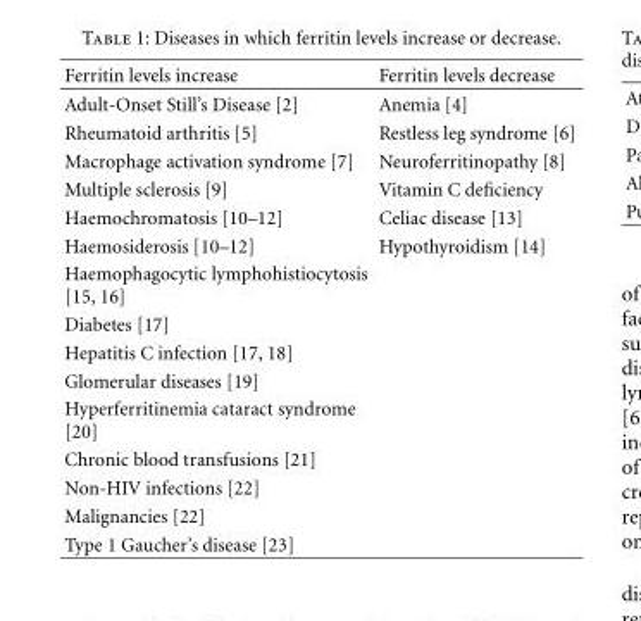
<table><thead><tr><td>Ferritin levels increase</td><td>Ferritin levels decrease</td></tr></thead><tbody><tr><td>Adult-Onset Still’s Disease [2]</td><td>Anemia [4]</td></tr><tr><td>Rheumatoid arthritis [5]</td><td>Restless leg syndrome [6]</td></tr><tr><td>Macrophage activation syndrome [7]</td><td>Neuroferritinopathy [8]</td></tr><tr><td>Multiple sclerosis [9]</td><td>Vitamin C deficiency</td></tr><tr><td>Haemochromatosis [10–12]</td><td>Celiac disease [13]</td></tr><tr><td>Haemosiderosis [10–12]</td><td>Hypothyroidism [14]</td></tr><tr><td colspan="2">Haemophagocytic lymphohistiocytosis [15, 16]</td></tr><tr><td colspan="2">Diabetes [17]</td></tr><tr><td colspan="2">Hepatitis C infection [17, 18]</td></tr><tr><td colspan="2">Glomerular diseases [19]</td></tr><tr><td colspan="2">Hyperferritinemia cataract syndrome [20]</td></tr><tr><td colspan="2">Chronic blood transfusions [21]</td></tr><tr><td colspan="2">Non-HIV infections [22]</td></tr><tr><td colspan="2">Malignancies [22]</td></tr><tr><td>Type 1 Gaucher’s disease [23]</td><td></td></tr></tbody></table>